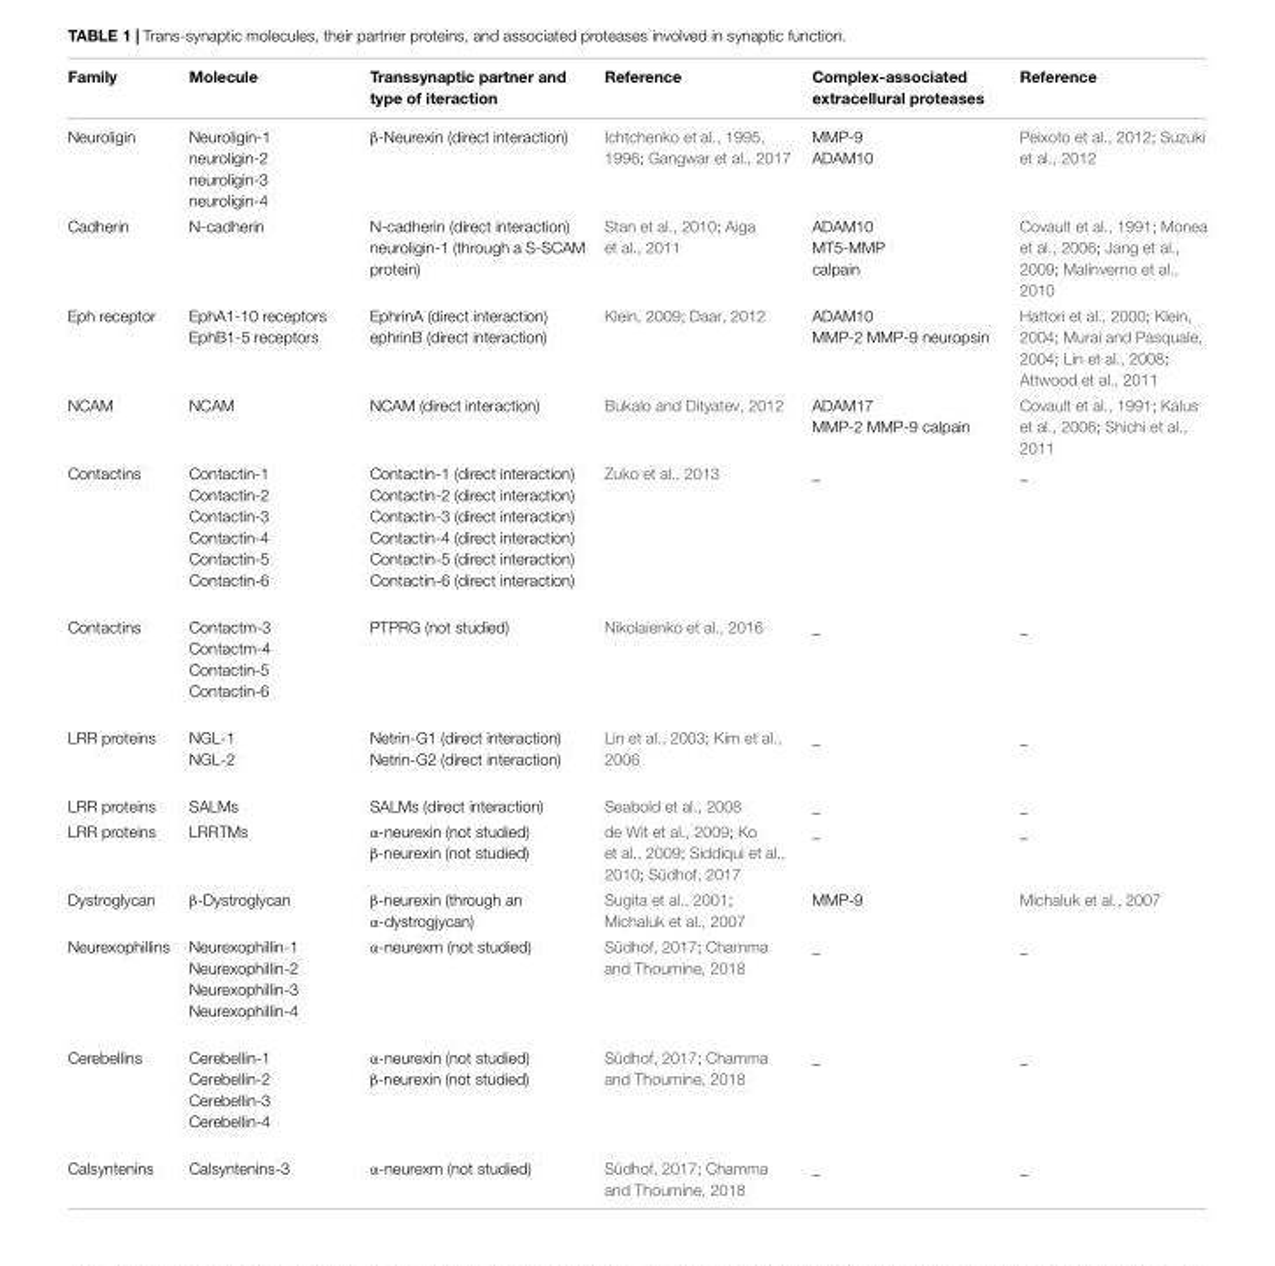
<table><thead><tr><td>Family</td><td>Molecule</td><td>Transsynaptic partner and type of iteraction</td><td>Reference</td><td>Complex-associated extracellural proteases</td><td>Reference</td></tr></thead><tbody><tr><td>Neuroligin</td><td>Neuroligin-1 neuroligin-2 neuroligin-3 neuroligin-4</td><td>β-Neurexin (direct interaction)</td><td>Ichtchenko et al., 1995, 1996; Gangwar et al., 2017</td><td>MMP-9 ADAM10</td><td>Peixoto et al., 2012; Suzuki et al., 2012</td></tr><tr><td>Cadherin</td><td>N-cadherin</td><td>N-cadherin (direct interaction) neuroligin-1 (through a S-SCAM protein)</td><td>Stan et al., 2010; Aiga et al., 2011</td><td>ADAM10 MT5-MMP calpain</td><td>Covault et al., 1991; Monea et al., 2006; Jang et al., 2009; Malinverno et al., 2010</td></tr><tr><td>Eph receptor</td><td>EphA1-10 receptors EphB1-5 receptors</td><td>EphrinA (direct interaction) ephrinB (direct interaction)</td><td>Klein, 2009; Daar, 2012</td><td>ADAM10 MMP-2 MMP-9 neuropsin</td><td>Hattori et al., 2000; Klein, 2004; Murai and Pasquale, 2004; Lin et al., 2008; Attwood et al., 2011</td></tr><tr><td>NCAM</td><td>NCAM</td><td>NCAM (direct interaction)</td><td>Bukalo and Dityatev, 2012</td><td>ADAM17 MMP-2 MMP-9 calpain</td><td>Covault et al., 1991; Kalus et al., 2006; Shichi et al., 2011</td></tr><tr><td>Contactins</td><td>Contactin-1 Contactin-2 Contactin-3 Contactin-4 Contactin-5 Contactin-6</td><td>Contactin-1 (direct interaction) Contactin-2 (direct interaction) Contactin-3 (direct interaction) Contactin-4 (direct interaction) Contactin-5 (direct interaction) Contactin-6 (direct interaction)</td><td>Zuko et al., 2013</td><td>_</td><td>_</td></tr><tr><td>Contactins</td><td>Contactm-3 Contactm-4 Contactin-5 Contactin-6</td><td>PTPRG (not studied)</td><td>Nikolaienko et al., 2016</td><td>_</td><td>_</td></tr><tr><td>LRR proteins</td><td>NGL-1 NGL-2</td><td>Netrin-G1 (direct interaction) Netrin-G2 (direct interaction)</td><td>Lin et al., 2003; Kim et al., 2006</td><td>_</td><td>_</td></tr><tr><td>LRR proteins</td><td>SALMs</td><td>SALMs (direct interaction)</td><td>Seabold et al., 2008</td><td>_</td><td>_</td></tr><tr><td>LRR proteins</td><td>LRRTMs</td><td>α-neurexin (not studied) β-neurexin (not studied)</td><td>de Wit et al., 2009; Ko et al., 2009; Siddiqui et al., 2010; Südhof, 2017</td><td>_</td><td>_</td></tr><tr><td>Dystroglycan</td><td>β-Dystroglycan</td><td>β-neurexin (through an α-dystrogjycan)</td><td>Sugita et al., 2001; Michaluk et al., 2007</td><td>MMP-9</td><td>Michaluk et al., 2007</td></tr><tr><td>Neurexophillins</td><td>Neurexophillin-1 Neurexophillin-2 Neurexophillin-3 Neurexophillin-4</td><td>α-neurexm (not studied)</td><td>Südhof, 2017; Chamma and Thoumine, 2018</td><td>_</td><td>_</td></tr><tr><td>Cerebellins</td><td>Cerebellin-1 Cerebellin-2 Cerebellin-3 Cerebellin-4</td><td>α-neurexin (not studied) β-neurexin (not studied)</td><td>Südhof, 2017; Chamma and Thoumine, 2018</td><td>_</td><td>_</td></tr><tr><td>Calsyntenins</td><td>Calsyntenins-3</td><td>α-neurexm (not studied)</td><td>Südhof, 2017; Chamma and Thoumine, 2018</td><td>_</td><td>_</td></tr></tbody></table>